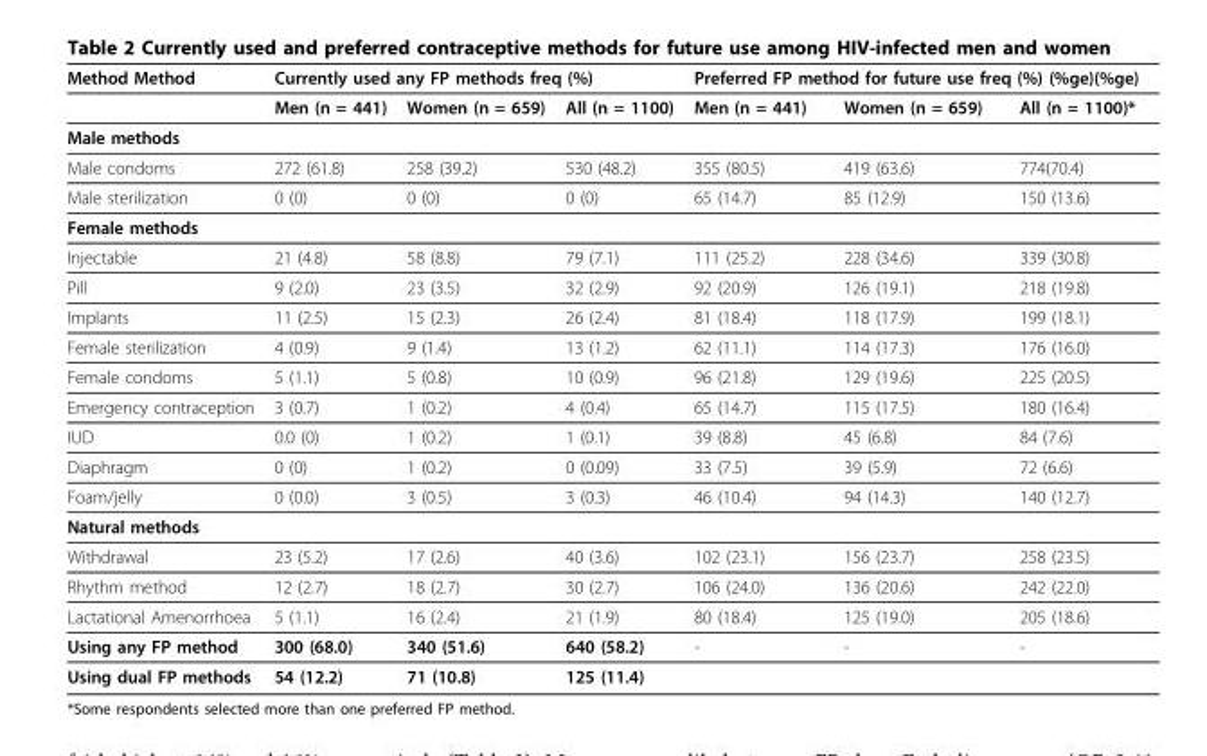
<table><thead><tr><td rowspan="2">Method Method</td><td colspan="3">Currently used any FP methods freq (%)</td><td colspan="3">Preferred FP method for future use freq (%) (%ge)(%ge)</td></tr><tr><td>Men (n = 441)</td><td>Women (n = 659)</td><td>All (n = 1100)</td><td>Men (n = 441)</td><td>Women (n = 659)</td><td>All (n = 1100)*</td></tr></thead><tbody><tr><td colspan="7">Male methods</td></tr><tr><td>Male condoms</td><td>272 (61.8)</td><td>258 (39.2)</td><td>530 (48.2)</td><td>355 (80.5)</td><td>419 (63.6)</td><td>774(70.4)</td></tr><tr><td>Male sterilization</td><td>0 (0)</td><td>0 (0)</td><td>0 (0)</td><td>65 (14.7)</td><td>85 (12.9)</td><td>150 (13.6)</td></tr><tr><td colspan="7">Female methods</td></tr><tr><td>Injectable</td><td>21 (4.8)</td><td>58 (8.8)</td><td>79 (7.1)</td><td>111 (25.2)</td><td>228 (34.6)</td><td>339 (30.8)</td></tr><tr><td>Pill</td><td>9 (2.0)</td><td>23 (3.5)</td><td>32 (2.9)</td><td>92 (20.9)</td><td>126 (19.1)</td><td>218 (19.8)</td></tr><tr><td>Implants</td><td>11 (2.5)</td><td>15 (2.3)</td><td>26 (2.4)</td><td>81 (18.4)</td><td>118 (17.9)</td><td>199 (18.1)</td></tr><tr><td>Female sterilization</td><td>4 (0.9)</td><td>9 (1.4)</td><td>13 (1.2)</td><td>62 (11.1)</td><td>114 (17.3)</td><td>176 (16.0)</td></tr><tr><td>Female condoms</td><td>5 (1.1)</td><td>5 (0.8)</td><td>10 (0.9)</td><td>96 (21.8)</td><td>129 (19.6)</td><td>225 (20.5)</td></tr><tr><td>Emergency contraception</td><td>3 (0.7)</td><td>1 (0.2)</td><td>4 (0.4)</td><td>65 (14.7)</td><td>115 (17.5)</td><td>180 (16.4)</td></tr><tr><td>IUD</td><td>0.0 (0)</td><td>1 (0.2)</td><td>1 (0.1)</td><td>39 (8.8)</td><td>45 (6.8)</td><td>84 (7.6)</td></tr><tr><td>Diaphragm</td><td>0 (0)</td><td>1 (0.2)</td><td>0 (0.09)</td><td>33 (7.5)</td><td>39 (5.9)</td><td>72 (6.6)</td></tr><tr><td>Foam/jelly</td><td>0 (0.0)</td><td>3 (0.5)</td><td>3 (0.3)</td><td>46 (10.4)</td><td>94 (14.3)</td><td>140 (12.7)</td></tr><tr><td colspan="7">Natural methods</td></tr><tr><td>Withdrawal</td><td>23 (5.2)</td><td>17 (2.6)</td><td>40 (3.6)</td><td>102 (23.1)</td><td>156 (23.7)</td><td>258 (23.5)</td></tr><tr><td>Rhythm method</td><td>12 (2.7)</td><td>18 (2.7)</td><td>30 (2.7)</td><td>106 (24.0)</td><td>136 (20.6)</td><td>242 (22.0)</td></tr><tr><td>Lactational Amenorrhoea</td><td>5 (1.1)</td><td>16 (2.4)</td><td>21 (1.9)</td><td>80 (18.4)</td><td>125 (19.0)</td><td>205 (18.6)</td></tr><tr><td>Using any FP method</td><td>300 (68.0)</td><td>340 (51.6)</td><td>640 (58.2)</td><td>-</td><td>-</td><td>-</td></tr><tr><td>Using dual FP methods</td><td>54 (12.2)</td><td>71 (10.8)</td><td>125 (11.4)</td><td></td><td></td><td></td></tr></tbody></table>